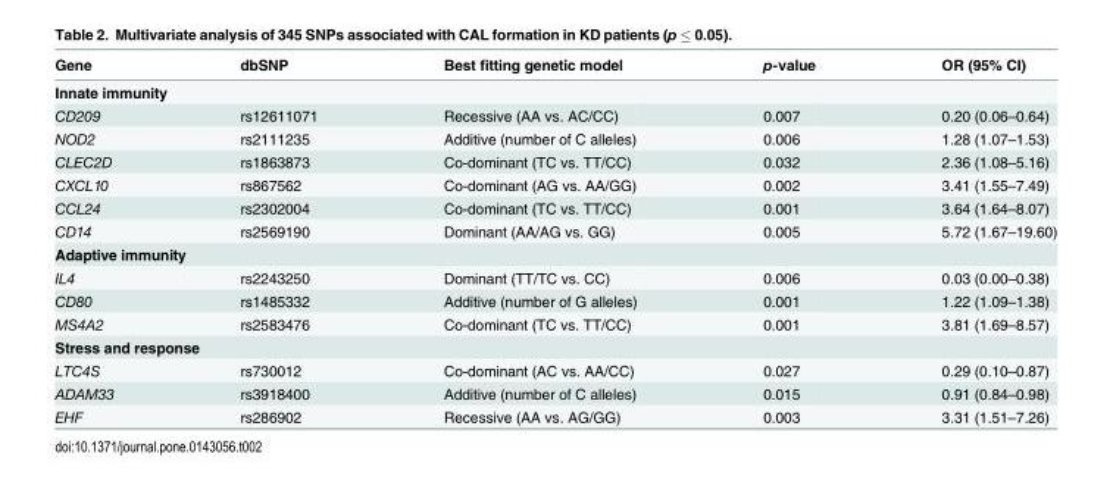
<table><thead><tr><td>Gene</td><td>dbSNP</td><td>Best fitting genetic model</td><td>p-value</td><td>OR (95% CI)</td></tr></thead><tbody><tr><td colspan="5">Innate immunity</td></tr><tr><td>CD209</td><td>rs12611071</td><td>Recessive (AA vs. AC/CC)</td><td>0.007</td><td>0.20 (0.06–0.64)</td></tr><tr><td>NOD2</td><td>rs2111235</td><td>Additive (number of C alleles)</td><td>0.006</td><td>1.28 (1.07–1.53)</td></tr><tr><td>CLEC2D</td><td>rs1863873</td><td>Co-dominant (TC vs. TT/CC)</td><td>0.032</td><td>2.36 (1.08–5.16)</td></tr><tr><td>CXCL10</td><td>rs867562</td><td>Co-dominant (AG vs. AA/GG)</td><td>0.002</td><td>3.41 (1.55–7.49)</td></tr><tr><td>CCL24</td><td>rs2302004</td><td>Co-dominant (TC vs. TT/CC)</td><td>0.001</td><td>3.64 (1.64–8.07)</td></tr><tr><td>CD14</td><td>rs2569190</td><td>Dominant (AA/AG vs. GG)</td><td>0.005</td><td>5.72 (1.67–19.60)</td></tr><tr><td colspan="5">Adaptive immunity</td></tr><tr><td>IL4</td><td>rs2243250</td><td>Dominant (TT/TC vs. CC)</td><td>0.006</td><td>0.03 (0.00–0.38)</td></tr><tr><td>CD80</td><td>rs1485332</td><td>Additive (number of G alleles)</td><td>0.001</td><td>1.22 (1.09–1.38)</td></tr><tr><td>MS4A2</td><td>rs2583476</td><td>Co-dominant (TC vs. TT/CC)</td><td>0.001</td><td>3.81 (1.69–8.57)</td></tr><tr><td colspan="5">Stress and response</td></tr><tr><td>LTC4S</td><td>rs730012</td><td>Co-dominant (AC vs. AA/CC)</td><td>0.027</td><td>0.29 (0.10–0.87)</td></tr><tr><td>ADAM33</td><td>rs3918400</td><td>Additive (number of C alleles)</td><td>0.015</td><td>0.91 (0.84–0.98)</td></tr><tr><td>EHF</td><td>rs286902</td><td>Recessive (AA vs. AG/GG)</td><td>0.003</td><td>3.31 (1.51–7.26)</td></tr></tbody></table>